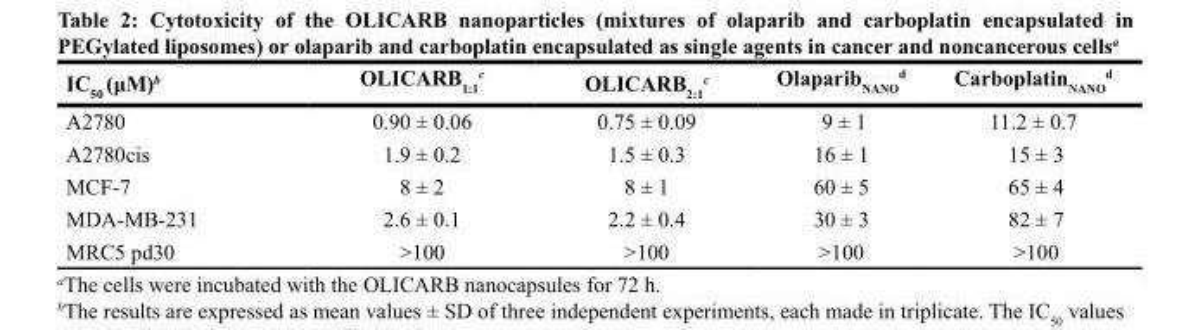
<table><thead><tr><td>IC<sub>50</sub> (μM)<sup>b</sup></td><td>OLICARB<sub>1:1</sub> <sup>c</sup></td><td>OLICARB<sub>2:1</sub> <sup>c</sup></td><td>Olaparib<sub>NANO</sub> <sup>d</sup></td><td>Carboplatin<sub>NANO</sub> <sup>d</sup></td></tr></thead><tbody><tr><td>A2780</td><td>0.90 ± 0.06</td><td>0.75 ± 0.09</td><td>9 ± 1</td><td>11.2 ± 0.7</td></tr><tr><td>A2780cis</td><td>1.9 ± 0.2</td><td>1.5 ± 0.3</td><td>16 ± 1</td><td>15 ± 3</td></tr><tr><td>MCF-7</td><td>8 ± 2</td><td>8 ± 1</td><td>60 ± 5</td><td>65 ± 4</td></tr><tr><td>MDA-MB-231</td><td>2.6 ± 0.1</td><td>2.2 ± 0.4</td><td>30 ± 3</td><td>82 ± 7</td></tr><tr><td>MRC5 pd30</td><td>&gt;100</td><td>&gt;100</td><td>&gt;100</td><td>&gt;100</td></tr></tbody></table>